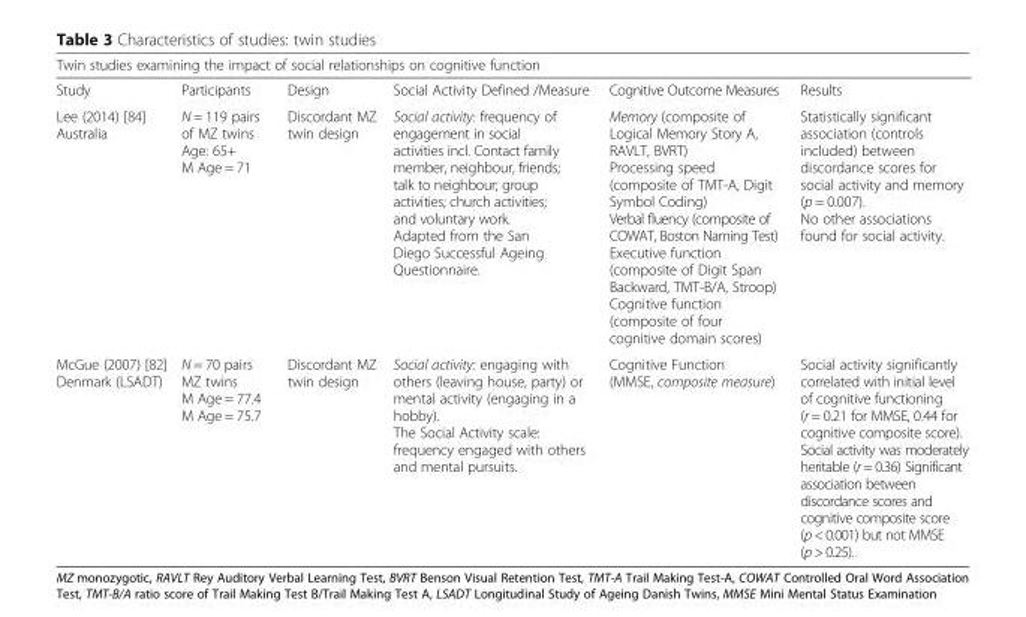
<table><thead><tr><td colspan="6">Twin studies examining the impact of social relationships on cognitive function</td></tr><tr><td>Study</td><td>Participants</td><td>Design</td><td>Social Activity Defined /Measure</td><td>Cognitive Outcome Measures</td><td>Results</td></tr></thead><tbody><tr><td>Lee (2014) [84] Australia</td><td>N = 119 pairs of MZ twins Age: 65+ M Age = 71</td><td>Discordant MZ twin design</td><td>Social activity: frequency of engagement in social activities incl. Contact family member, neighbour, friends; talk to neighbour; group activities; church activities; and voluntary work. Adapted from the San Diego Successful Ageing Questionnaire.</td><td>Memory (composite of Logical Memory Story A, RAVLT, BVRT) Processing speed (composite of TMT-A, Digit Symbol Coding) Verbal fluency (composite of COWAT, Boston Naming Test) Executive function (composite of Digit Span Backward, TMT-B/A, Stroop) Cognitive function (composite of four cognitive domain scores)</td><td>Statistically significant association (controls included) between discordance scores for social activity and memory (p = 0.007). No other associations found for social activity.</td></tr><tr><td>McGue (2007) [82] Denmark (LSADT)</td><td>N = 70 pairs MZ twins M Age = 77.4 M Age = 75.7</td><td>Discordant MZ twin design</td><td>Social activity: engaging with others (leaving house, party) or mental activity (engaging in a hobby). The Social Activity scale: frequency engaged with others and mental pursuits.</td><td>Cognitive Function (MMSE, composite measure)</td><td>Social activity significantly correlated with initial level of cognitive functioning (r = 0.21 for MMSE, 0.44 for cognitive composite score). Social activity was moderately heritable (r = 0.36) Significant association between discordance scores and cognitive composite score (p &lt; 0.001) but not MMSE (p &gt; 0.25).</td></tr></tbody></table>